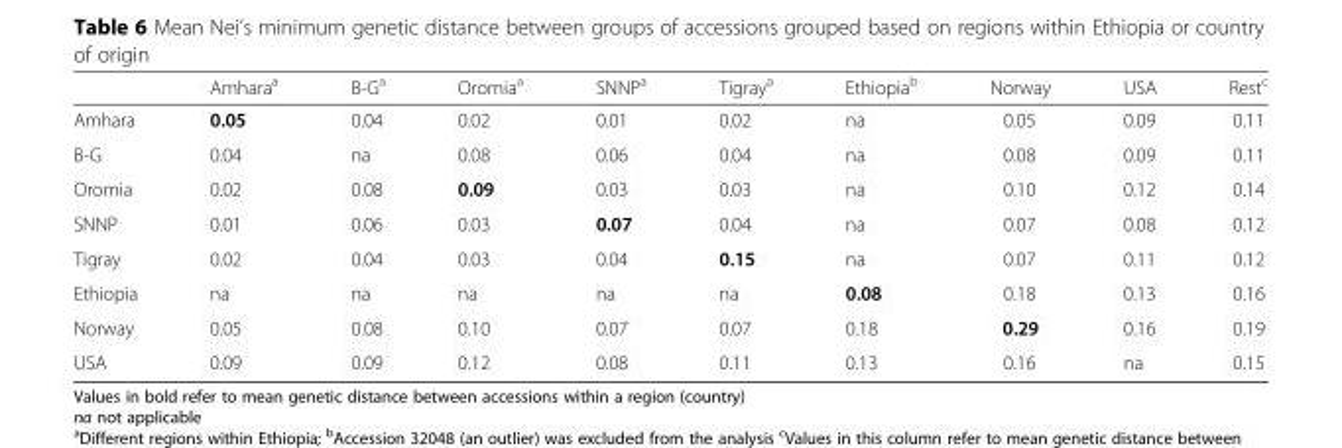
<table><thead><tr><td></td><td>Amhara<sup>a</sup></td><td>B-G<sup>a</sup></td><td>Oromia<sup>a</sup></td><td>SNNP<sup>a</sup></td><td>Tigray<sup>a</sup></td><td>Ethiopia<sup>b</sup></td><td>Norway</td><td>USA</td><td>Rest<sup>c</sup></td></tr></thead><tbody><tr><td>Amhara</td><td>0.05</td><td>0.04</td><td>0.02</td><td>0.01</td><td>0.02</td><td>na</td><td>0.05</td><td>0.09</td><td>0.11</td></tr><tr><td>B-G</td><td>0.04</td><td>na</td><td>0.08</td><td>0.06</td><td>0.04</td><td>na</td><td>0.08</td><td>0.09</td><td>0.11</td></tr><tr><td>Oromia</td><td>0.02</td><td>0.08</td><td>0.09</td><td>0.03</td><td>0.03</td><td>na</td><td>0.10</td><td>0.12</td><td>0.14</td></tr><tr><td>SNNP</td><td>0.01</td><td>0.06</td><td>0.03</td><td>0.07</td><td>0.04</td><td>na</td><td>0.07</td><td>0.08</td><td>0.12</td></tr><tr><td>Tigray</td><td>0.02</td><td>0.04</td><td>0.03</td><td>0.04</td><td>0.15</td><td>na</td><td>0.07</td><td>0.11</td><td>0.12</td></tr><tr><td>Ethiopia</td><td>na</td><td>na</td><td>na</td><td>na</td><td>na</td><td>0.08</td><td>0.18</td><td>0.13</td><td>0.16</td></tr><tr><td>Norway</td><td>0.05</td><td>0.08</td><td>0.10</td><td>0.07</td><td>0.07</td><td>0.18</td><td>0.29</td><td>0.16</td><td>0.19</td></tr><tr><td>USA</td><td>0.09</td><td>0.09</td><td>0.12</td><td>0.08</td><td>0.11</td><td>0.13</td><td>0.16</td><td>na</td><td>0.15</td></tr></tbody></table>